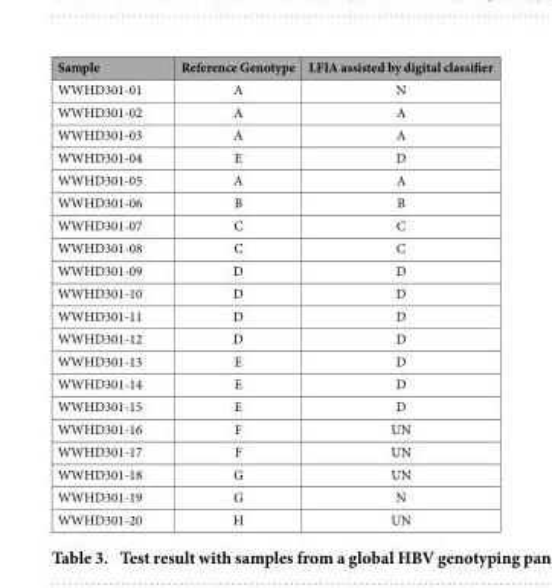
<table><thead><tr><td>Sample</td><td>Reference Genotype</td><td>LFIA assisted by digital classifier</td></tr></thead><tbody><tr><td>WWHD301-01</td><td>A</td><td>N</td></tr><tr><td>WWHD301-02</td><td>A</td><td>A</td></tr><tr><td>WWHD301-03</td><td>A</td><td>A</td></tr><tr><td>WWHD301-04</td><td>E</td><td>D</td></tr><tr><td>WWHD301-05</td><td>A</td><td>A</td></tr><tr><td>WWHD301-06</td><td>B</td><td>B</td></tr><tr><td>WWHD301-07</td><td>C</td><td>C</td></tr><tr><td>WWHD301-08</td><td>C</td><td>C</td></tr><tr><td>WWHD301-09</td><td>D</td><td>D</td></tr><tr><td>WWHD301-10</td><td>D</td><td>D</td></tr><tr><td>WWHD301-11</td><td>D</td><td>D</td></tr><tr><td>WWHD301-12</td><td>D</td><td>D</td></tr><tr><td>WWHD301-13</td><td>E</td><td>D</td></tr><tr><td>WWHD301-14</td><td>E</td><td>D</td></tr><tr><td>WWHD301-15</td><td>E</td><td>D</td></tr><tr><td>WWHD301-16</td><td>F</td><td>UN</td></tr><tr><td>WWHD301-17</td><td>F</td><td>UN</td></tr><tr><td>WWHD301-18</td><td>G</td><td>UN</td></tr><tr><td>WWHD301-19</td><td>G</td><td>N</td></tr><tr><td>WWHD301-20</td><td>H</td><td>UN</td></tr></tbody></table>